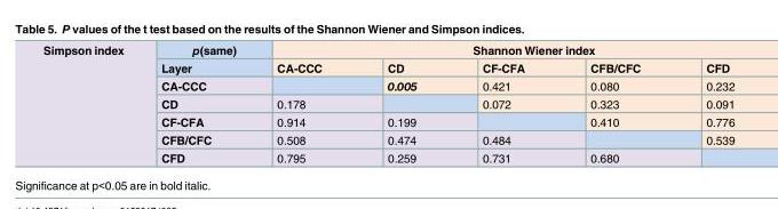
<table><tbody><tr><td rowspan="7">Simpson index</td><td>p(same)</td><td colspan="5">Shannon Wiener index</td></tr><tr><td>Layer</td><td>CA-CCC</td><td>CD</td><td>CF-CFA</td><td>CFB/CFC</td><td>CFD</td></tr><tr><td>CA-CCC</td><td></td><td>0.005</td><td>0.421</td><td>0.080</td><td>0.232</td></tr><tr><td>CD</td><td>0.178</td><td></td><td>0.072</td><td>0.323</td><td>0.091</td></tr><tr><td>CF-CFA</td><td>0.914</td><td>0.199</td><td></td><td>0.410</td><td>0.776</td></tr><tr><td>CFB/CFC</td><td>0.508</td><td>0.474</td><td>0.484</td><td></td><td>0.539</td></tr><tr><td>CFD</td><td>0.795</td><td>0.259</td><td>0.731</td><td>0.680</td><td></td></tr></tbody></table>